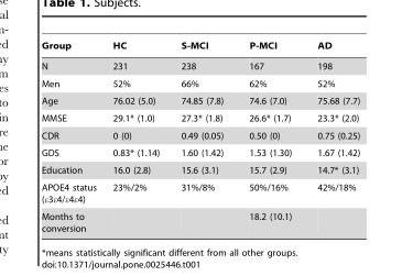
<table><thead><tr><td>Group</td><td>HC</td><td>S-MCI</td><td>P-MCI</td><td>AD</td></tr></thead><tbody><tr><td>N</td><td>231</td><td>238</td><td>167</td><td>198</td></tr><tr><td>Men</td><td>52%</td><td>66%</td><td>62%</td><td>52%</td></tr><tr><td>Age</td><td>76.02 (5.0)</td><td>74.85 (7.8)</td><td>74.6 (7.0)</td><td>75.68 (7.7)</td></tr><tr><td>MMSE</td><td>29.1* (1.0)</td><td>27.3* (1.8)</td><td>26.6* (1.7)</td><td>23.3* (2.0)</td></tr><tr><td>CDR</td><td>0 (0)</td><td>0.49 (0.05)</td><td>0.50 (0)</td><td>0.75 (0.25)</td></tr><tr><td>GDS</td><td>0.83* (1.14)</td><td>1.60 (1.42)</td><td>1.53 (1.30)</td><td>1.67 (1.42)</td></tr><tr><td>Education</td><td>16.0 (2.8)</td><td>15.6 (3.1)</td><td>15.7 (2.9)</td><td>14.7* (3.1)</td></tr><tr><td>APOE4 status (e3e4/e4e4)</td><td>23%/2%</td><td>31%/8%</td><td>50%/16%</td><td>42%/18%</td></tr><tr><td>Months to conversion</td><td></td><td></td><td>18.2 (10.1)</td><td></td></tr></tbody></table>